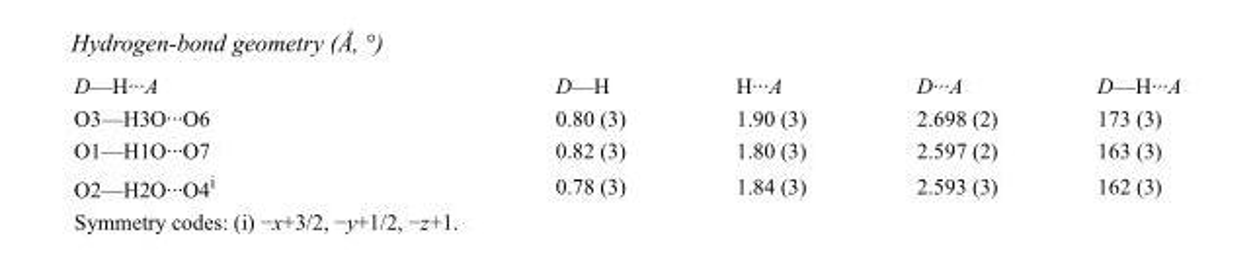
<table><tbody><tr><td>D—H···A</td><td>D—H</td><td>H···A</td><td>D···A</td><td>D—H···A</td></tr><tr><td>O3—H3O···O6</td><td>0.80 (3)</td><td>1.90 (3)</td><td>2.698 (2)</td><td>173 (3)</td></tr><tr><td>O1—H1O···O7</td><td>0.82 (3)</td><td>1.80 (3)</td><td>2.597 (2)</td><td>163 (3)</td></tr><tr><td>O2—H2O···O4<sup>i</sup></td><td>0.78 (3)</td><td>1.84 (3)</td><td>2.593 (3)</td><td>162 (3)</td></tr></tbody></table>